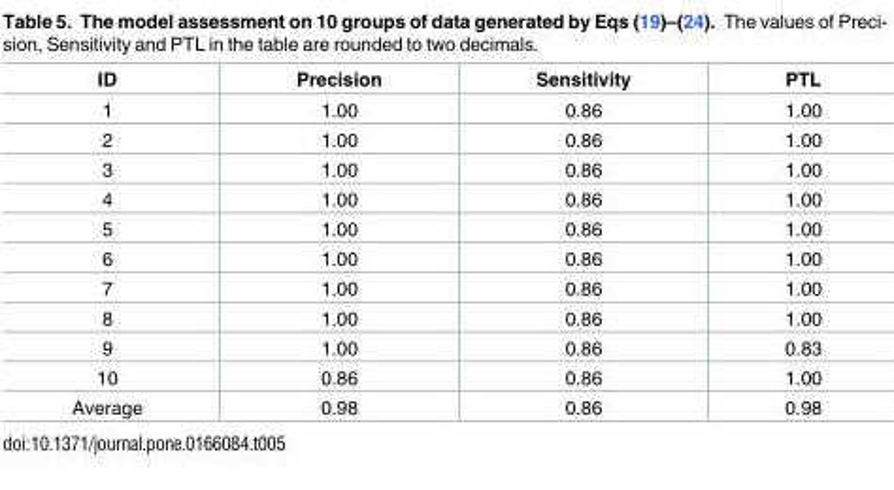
<table><thead><tr><td>ID</td><td>Precision</td><td>Sensitivity</td><td>PTL</td></tr></thead><tbody><tr><td>1</td><td>1.00</td><td>0.86</td><td>1.00</td></tr><tr><td>2</td><td>1.00</td><td>0.86</td><td>1.00</td></tr><tr><td>3</td><td>1.00</td><td>0.86</td><td>1.00</td></tr><tr><td>4</td><td>1.00</td><td>0.86</td><td>1.00</td></tr><tr><td>5</td><td>1.00</td><td>0.86</td><td>1.00</td></tr><tr><td>6</td><td>1.00</td><td>0.86</td><td>1.00</td></tr><tr><td>7</td><td>1.00</td><td>0.86</td><td>1.00</td></tr><tr><td>8</td><td>1.00</td><td>0.86</td><td>1.00</td></tr><tr><td>9</td><td>1.00</td><td>0.86</td><td>0.83</td></tr><tr><td>10</td><td>0.86</td><td>0.86</td><td>1.00</td></tr><tr><td>Average</td><td>0.98</td><td>0.86</td><td>0.98</td></tr></tbody></table>